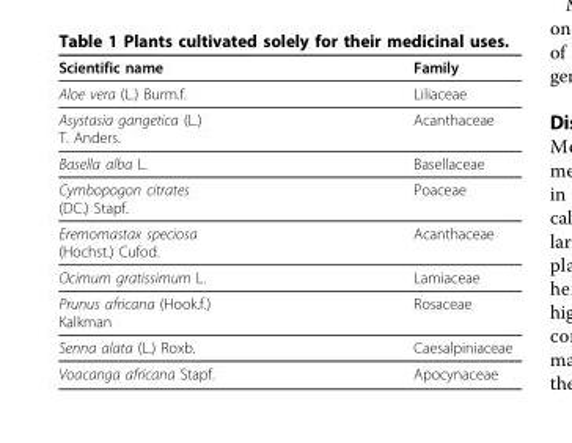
<table><thead><tr><td>Scientific name</td><td>Family</td></tr></thead><tbody><tr><td>Aloe vera (L.) Burm.f.</td><td>Liliaceae</td></tr><tr><td>Asystasia gangetica (L.) T. Anders.</td><td>Acanthaceae</td></tr><tr><td>Basella alba L.</td><td>Basellaceae</td></tr><tr><td>Cymbopogon citrates (DC.) Stapf.</td><td>Poaceae</td></tr><tr><td>Eremomastax speciosa (Hochst.) Cufod.</td><td>Acanthaceae</td></tr><tr><td>Ocimum gratissimum L.</td><td>Lamiaceae</td></tr><tr><td>Prunus africana (Hook.f.) Kalkman</td><td>Rosaceae</td></tr><tr><td>Senna alata (L.) Roxb.</td><td>Caesalpiniaceae</td></tr><tr><td>Voacanga africana Stapf.</td><td>Apocynaceae</td></tr></tbody></table>